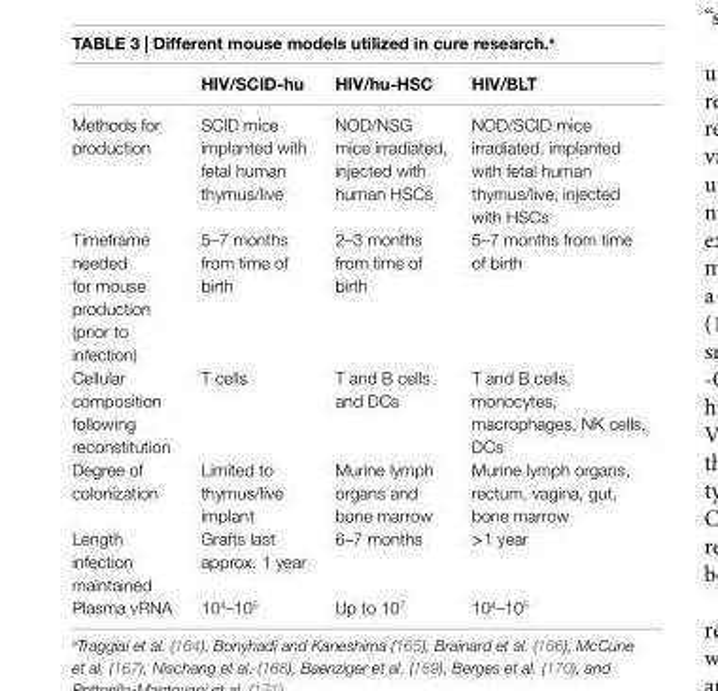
<table><thead><tr><td></td><td>Hiv/SCiD-hu</td><td>Hiv/hu-HSC</td><td>Hiv/BLT</td></tr></thead><tbody><tr><td>Methods for production</td><td>SCID mice implanted with fetal human thymus/live</td><td>NOD/NSG mice irradiated, injected with human HSCs</td><td>NOD/SCID mice irradiated, implanted with fetal human thymus/live, injected with HSCs</td></tr><tr><td>Timeframe needed for mouse production (prior to infection)</td><td>5–7 months from time of birth</td><td>2–3 months from time of birth</td><td>5–7 months from time of birth</td></tr><tr><td>Cellular composition following reconstitution</td><td>T cells</td><td>T and B cells and DCs</td><td>T and B cells, monocytes, macrophages, NK cells, DCs</td></tr><tr><td>Degree of colonization</td><td>Limited to thymus/live implant</td><td>Murine lymph organs and bone marrow</td><td>Murine lymph organs, rectum, vagina, gut, bone marrow</td></tr><tr><td>Length infection maintained</td><td>Grafts last approx. 1 year</td><td>6–7 months</td><td>&gt;1 year</td></tr><tr><td>Plasma vRNA</td><td>10<sup>4</sup>–10<sup>5</sup></td><td>Up to 10<sup>7</sup></td><td>10<sup>4</sup>–10<sup>5</sup></td></tr></tbody></table>